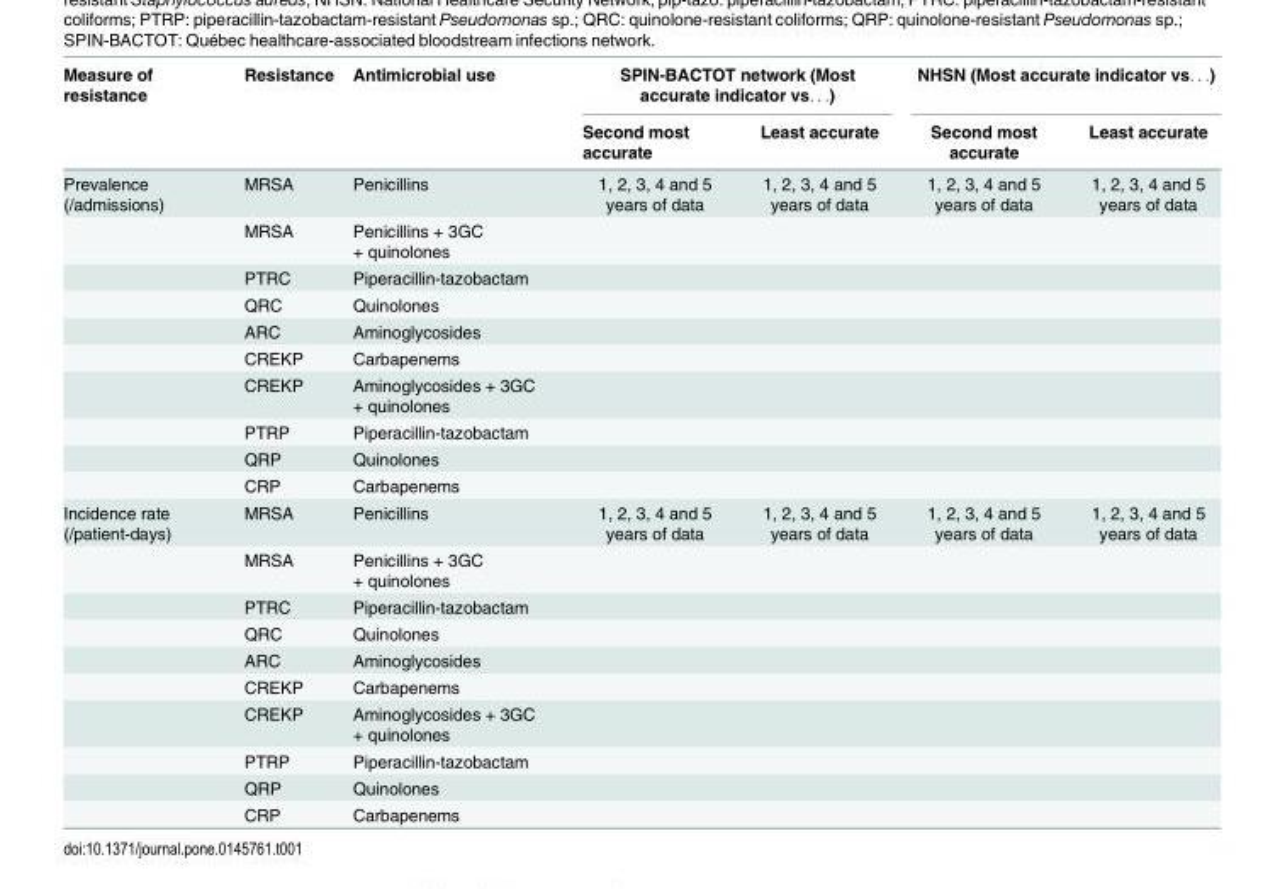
<table><thead><tr><td rowspan="2">Measure of resistance</td><td rowspan="2">Resistance</td><td rowspan="2">Antimicrobial use</td><td colspan="2">SPIN-BACTOT network (Most accurate indicator vs. . .)</td><td colspan="2">NHSN (Most accurate indicator vs. . .)</td></tr><tr><td>Second most accurate</td><td>Least accurate</td><td>Second most accurate</td><td>Least accurate</td></tr></thead><tbody><tr><td rowspan="10">Prevalence (/admissions)</td><td>MRSA</td><td>Penicillins</td><td>1, 2, 3, 4 and 5 years of data</td><td>1, 2, 3, 4 and 5 years of data</td><td>1, 2, 3, 4 and 5 years of data</td><td>1, 2, 3, 4 and 5 years of data</td></tr><tr><td>MRSA</td><td>Penicillins + 3GC + quinolones</td><td></td><td></td><td></td><td></td></tr><tr><td>PTRC</td><td>Piperacillin-tazobactam</td><td></td><td></td><td></td><td></td></tr><tr><td>QRC</td><td>Quinolones</td><td></td><td></td><td></td><td></td></tr><tr><td>ARC</td><td>Aminoglycosides</td><td></td><td></td><td></td><td></td></tr><tr><td>CREKP</td><td>Carbapenems</td><td></td><td></td><td></td><td></td></tr><tr><td>CREKP</td><td>Aminoglycosides + 3GC + quinolones</td><td></td><td></td><td></td><td></td></tr><tr><td>PTRP</td><td>Piperacillin-tazobactam</td><td></td><td></td><td></td><td></td></tr><tr><td>QRP</td><td>Quinolones</td><td></td><td></td><td></td><td></td></tr><tr><td>CRP</td><td>Carbapenems</td><td></td><td></td><td></td><td></td></tr><tr><td rowspan="10">Incidence rate (/patient-days)</td><td>MRSA</td><td>Penicillins</td><td>1, 2, 3, 4 and 5 years of data</td><td>1, 2, 3, 4 and 5 years of data</td><td>1, 2, 3, 4 and 5 years of data</td><td>1, 2, 3, 4 and 5 years of data</td></tr><tr><td>MRSA</td><td>Penicillins + 3GC + quinolones</td><td></td><td></td><td></td><td></td></tr><tr><td>PTRC</td><td>Piperacillin-tazobactam</td><td></td><td></td><td></td><td></td></tr><tr><td>QRC</td><td>Quinolones</td><td></td><td></td><td></td><td></td></tr><tr><td>ARC</td><td>Aminoglycosides</td><td></td><td></td><td></td><td></td></tr><tr><td>CREKP</td><td>Carbapenems</td><td></td><td></td><td></td><td></td></tr><tr><td>CREKP</td><td>Aminoglycosides + 3GC + quinolones</td><td></td><td></td><td></td><td></td></tr><tr><td>PTRP</td><td>Piperacillin-tazobactam</td><td></td><td></td><td></td><td></td></tr><tr><td>QRP</td><td>Quinolones</td><td></td><td></td><td></td><td></td></tr><tr><td>CRP</td><td>Carbapenems</td><td></td><td></td><td></td><td></td></tr></tbody></table>